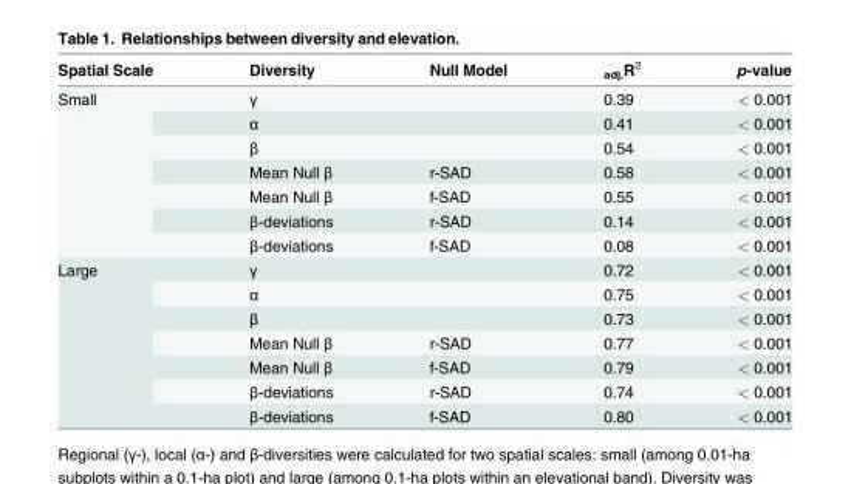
<table><thead><tr><td>Spatial Scale</td><td>Diversity</td><td>Null Model</td><td><sub>adj.</sub>R<sup>2</sup></td><td>p-value</td></tr></thead><tbody><tr><td rowspan="7">Small</td><td>γ</td><td></td><td>0.39</td><td>&lt; 0.001</td></tr><tr><td>α</td><td></td><td>0.41</td><td>&lt; 0.001</td></tr><tr><td>β</td><td></td><td>0.54</td><td>&lt; 0.001</td></tr><tr><td>Mean Null β</td><td>r-SAD</td><td>0.58</td><td>&lt; 0.001</td></tr><tr><td>Mean Null β</td><td>f-SAD</td><td>0.55</td><td>&lt; 0.001</td></tr><tr><td>β-deviations</td><td>r-SAD</td><td>0.14</td><td>&lt; 0.001</td></tr><tr><td>β-deviations</td><td>f-SAD</td><td>0.08</td><td>&lt; 0.001</td></tr><tr><td rowspan="7">Large</td><td>γ</td><td></td><td>0.72</td><td>&lt; 0.001</td></tr><tr><td>α</td><td></td><td>0.75</td><td>&lt; 0.001</td></tr><tr><td>β</td><td></td><td>0.73</td><td>&lt; 0.001</td></tr><tr><td>Mean Null β</td><td>r-SAD</td><td>0.77</td><td>&lt; 0.001</td></tr><tr><td>Mean Null β</td><td>f-SAD</td><td>0.79</td><td>&lt; 0.001</td></tr><tr><td>β-deviations</td><td>r-SAD</td><td>0.74</td><td>&lt; 0.001</td></tr><tr><td>β-deviations</td><td>f-SAD</td><td>0.80</td><td>&lt; 0.001</td></tr></tbody></table>